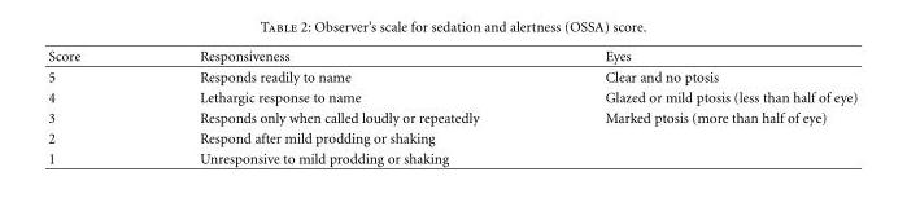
<table><thead><tr><td>Score</td><td>Responsiveness</td><td>Eyes</td></tr></thead><tbody><tr><td>5</td><td>Responds readily to name</td><td>Clear and no ptosis</td></tr><tr><td>4</td><td>Lethargic response to name</td><td>Glazed or mild ptosis (less than half of eye)</td></tr><tr><td>3</td><td>Responds only when called loudly or repeatedly</td><td>Marked ptosis (more than half of eye)</td></tr><tr><td>2</td><td>Respond after mild prodding or shaking</td><td></td></tr><tr><td>1</td><td>Unresponsive to mild prodding or shaking</td><td></td></tr></tbody></table>